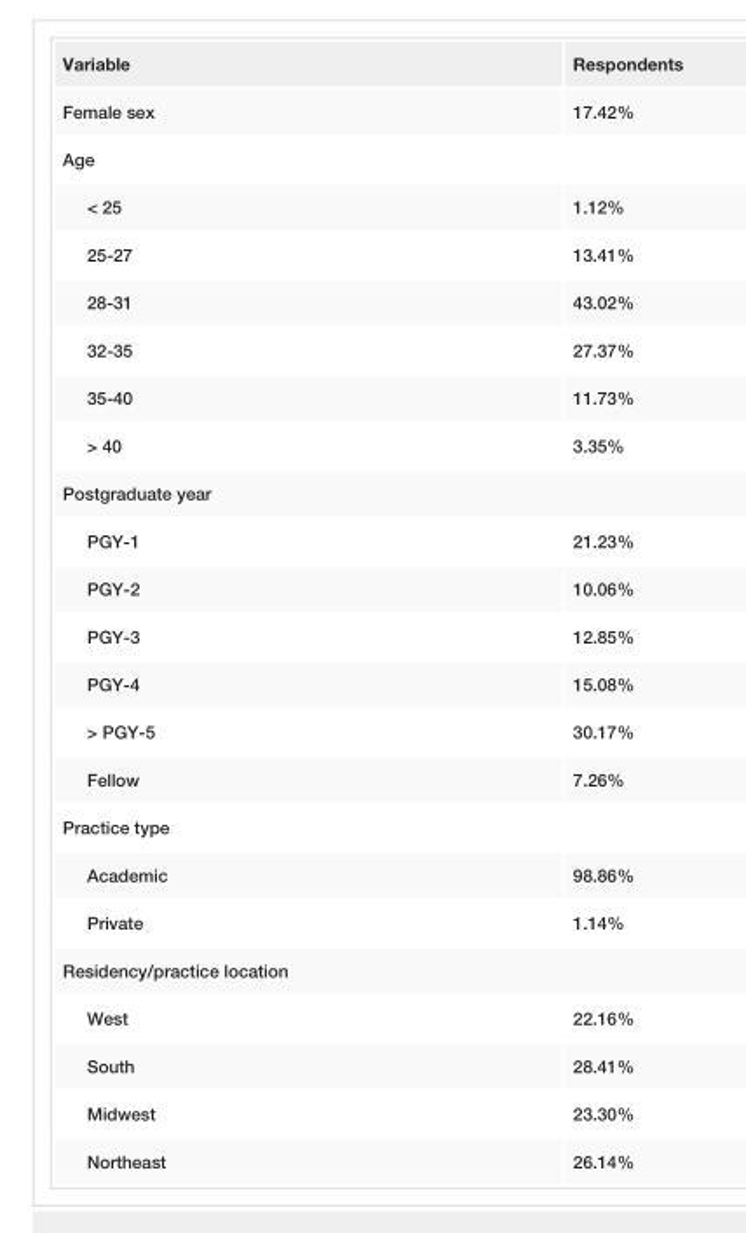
<table><tbody><tr><td>Variable</td><td>Respondents</td></tr><tr><td>Female sex</td><td>17.42%</td></tr><tr><td colspan="2">Age</td></tr><tr><td>&lt; 25</td><td>1.12%</td></tr><tr><td>25-27</td><td>13.41%</td></tr><tr><td>28-31</td><td>43.02%</td></tr><tr><td>32-35</td><td>27.37%</td></tr><tr><td>35-40</td><td>11.73%</td></tr><tr><td>&gt; 40</td><td>3.35%</td></tr><tr><td colspan="2">Postgraduate year</td></tr><tr><td>PGY-1</td><td>21.23%</td></tr><tr><td>PGY-2</td><td>10.06%</td></tr><tr><td>PGY-3</td><td>12.85%</td></tr><tr><td>PGY-4</td><td>15.08%</td></tr><tr><td>&gt; PGY-5</td><td>30.17%</td></tr><tr><td>Fellow</td><td>7.26%</td></tr><tr><td colspan="2">Practice type</td></tr><tr><td>Academic</td><td>98.86%</td></tr><tr><td>Private</td><td>1.14%</td></tr><tr><td colspan="2">Residency/practice location</td></tr><tr><td>West</td><td>22.16%</td></tr><tr><td>South</td><td>28.41%</td></tr><tr><td>Midwest</td><td>23.30%</td></tr><tr><td>Northeast</td><td>26.14%</td></tr></tbody></table>